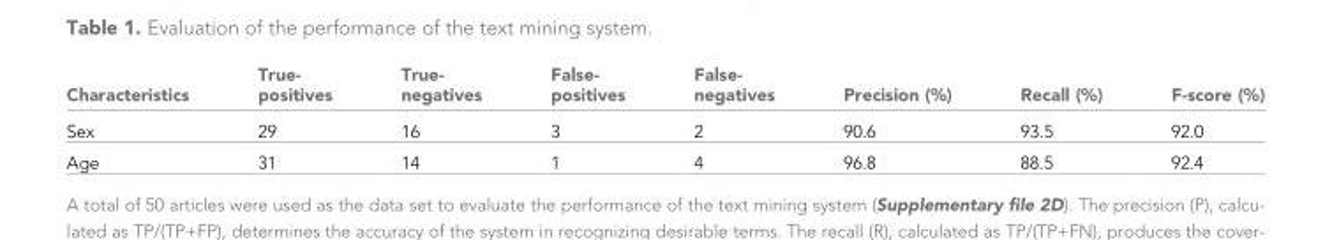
<table><thead><tr><td>Characteristics</td><td>True- positives</td><td>True- negatives</td><td>False- positives</td><td>False- negatives</td><td>Precision (%)</td><td>Recall (%)</td><td>F-score (%)</td></tr></thead><tbody><tr><td>Sex</td><td>29</td><td>16</td><td>3</td><td>2</td><td>90.6</td><td>93.5</td><td>92.0</td></tr><tr><td>Age</td><td>31</td><td>14</td><td>1</td><td>4</td><td>96.8</td><td>88.5</td><td>92.4</td></tr></tbody></table>